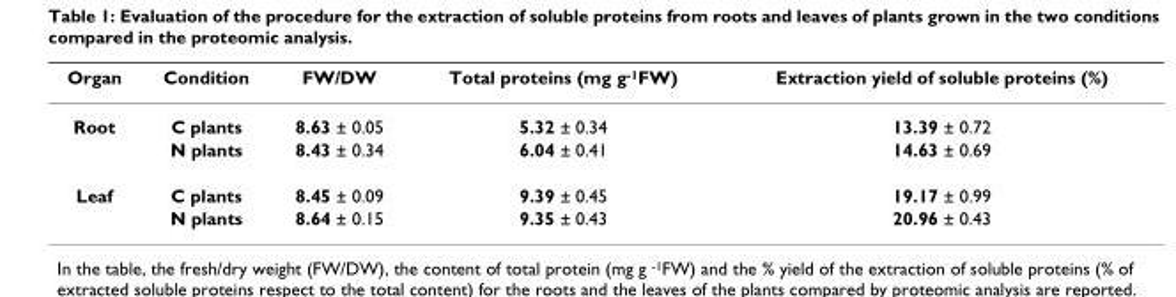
<table><thead><tr><td>Organ</td><td>Condition</td><td>FW/DW</td><td>Total proteins (mg g<sup>-1</sup>FW)</td><td>Extraction yield of soluble proteins (%)</td></tr></thead><tbody><tr><td rowspan="2">Root</td><td>C plants</td><td>8.63 ± 0.05</td><td>5.32 ± 0.34</td><td>13.39 ± 0.72</td></tr><tr><td>N plants</td><td>8.43 ± 0.34</td><td>6.04 ± 0.41</td><td>14.63 ± 0.69</td></tr><tr><td rowspan="2">Leaf</td><td>C plants</td><td>8.45 ± 0.09</td><td>9.39 ± 0.45</td><td>19.17 ± 0.99</td></tr><tr><td>N plants</td><td>8.64 ± 0.15</td><td>9.35 ± 0.43</td><td>20.96 ± 0.43</td></tr></tbody></table>